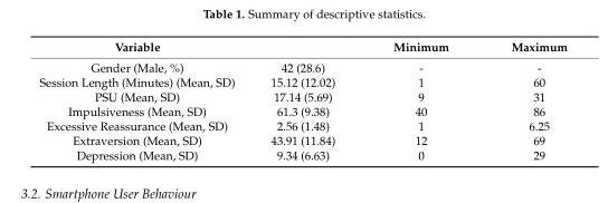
<table><thead><tr><td>Variable</td><td></td><td>Minimum</td><td>Maximum</td></tr></thead><tbody><tr><td>Gender (Male, %)</td><td>42 (28.6)</td><td>-</td><td>-</td></tr><tr><td>Session Length (Minutes) (Mean, SD)</td><td>15.12 (12.02)</td><td>1</td><td>60</td></tr><tr><td>PSU (Mean, SD)</td><td>17.14 (5.69)</td><td>9</td><td>31</td></tr><tr><td>Impulsiveness (Mean, SD)</td><td>61.3 (9.38)</td><td>40</td><td>86</td></tr><tr><td>Excessive Reassurance (Mean, SD)</td><td>2.56 (1.48)</td><td>1</td><td>6.25</td></tr><tr><td>Extraversion (Mean, SD)</td><td>43.91 (11.84)</td><td>12</td><td>69</td></tr><tr><td>Depression (Mean, SD)</td><td>9.34 (6.63)</td><td>0</td><td>29</td></tr></tbody></table>